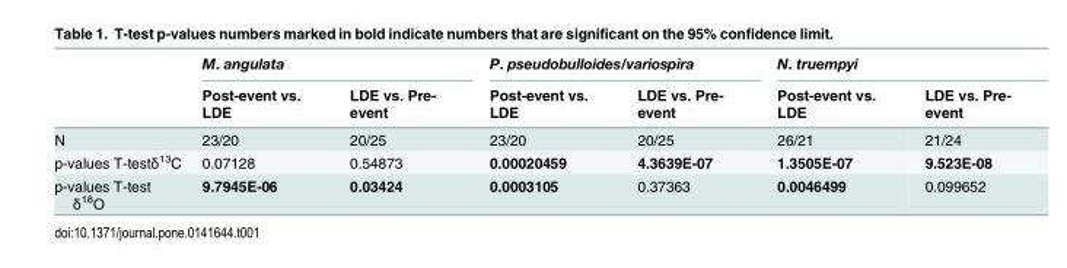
<table><thead><tr><td rowspan="2"></td><td colspan="2">M. angulata</td><td colspan="2">P. pseudobulloides/variospira</td><td colspan="2">N. truempyi</td></tr><tr><td>Post-event vs. LDE</td><td>LDE vs. Pre- event</td><td>Post-event vs. LDE</td><td>LDE vs. Pre- event</td><td>Post-event vs. LDE</td><td>LDE vs. Pre- event</td></tr></thead><tbody><tr><td>N</td><td>23/20</td><td>20/25</td><td>23/20</td><td>20/25</td><td>26/21</td><td>21/24</td></tr><tr><td>p-values T-testδ<sup>13</sup>C</td><td>0.07128</td><td>0.54873</td><td>0.00020459</td><td>4.3639E-07</td><td>1.3505E-07</td><td>9.523E-08</td></tr><tr><td>p-values T-test δ<sup>18</sup>O</td><td>9.7945E-06</td><td>0.03424</td><td>0.0003105</td><td>0.37363</td><td>0.0046499</td><td>0.099652</td></tr></tbody></table>